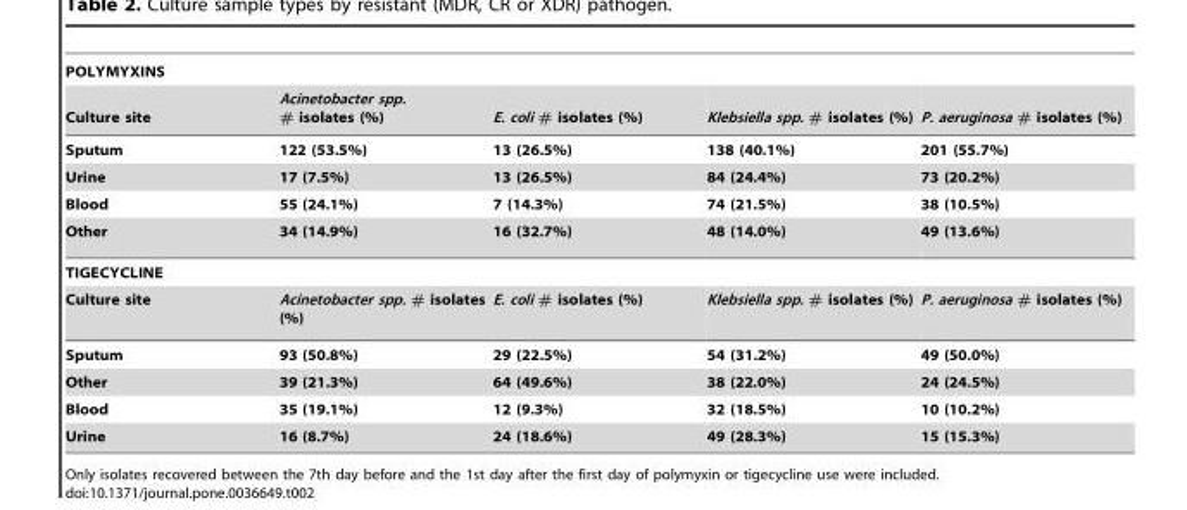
<table><thead><tr><td rowspan="2">POLYMYXINS Culture site</td><td rowspan="2">Acinetobacter spp. # isolates (%)</td><td rowspan="2">E. coli # isolates (%)</td><td rowspan="2">Klebsiella spp. # isolates (%)</td><td rowspan="2">P. aeruginosa # isolates (%)</td></tr><tr></tr></thead><tbody><tr><td>Sputum</td><td>122 (53.5%)</td><td>13 (26.5%)</td><td>138 (40.1%)</td><td>201 (55.7%)</td></tr><tr><td>Urine</td><td>17 (7.5%)</td><td>13 (26.5%)</td><td>84 (24.4%)</td><td>73 (20.2%)</td></tr><tr><td>Blood</td><td>55 (24.1%)</td><td>7 (14.3%)</td><td>74 (21.5%)</td><td>38 (10.5%)</td></tr><tr><td>Other</td><td>34 (14.9%)</td><td>16 (32.7%)</td><td>48 (14.0%)</td><td>49 (13.6%)</td></tr><tr><td colspan="5">TIGECYCLINE</td></tr><tr><td>Culture site</td><td>Acinetobacter spp. # isolates (%)</td><td>E. coli # isolates (%)</td><td>Klebsiella spp. # isolates (%)</td><td>P. aeruginosa # isolates (%)</td></tr><tr><td>Sputum</td><td>93 (50.8%)</td><td>29 (22.5%)</td><td>54 (31.2%)</td><td>49 (50.0%)</td></tr><tr><td>Other</td><td>39 (21.3%)</td><td>64 (49.6%)</td><td>38 (22.0%)</td><td>24 (24.5%)</td></tr><tr><td>Blood</td><td>35 (19.1%)</td><td>12 (9.3%)</td><td>32 (18.5%)</td><td>10 (10.2%)</td></tr><tr><td>Urine</td><td>16 (8.7%)</td><td>24 (18.6%)</td><td>49 (28.3%)</td><td>15 (15.3%)</td></tr></tbody></table>